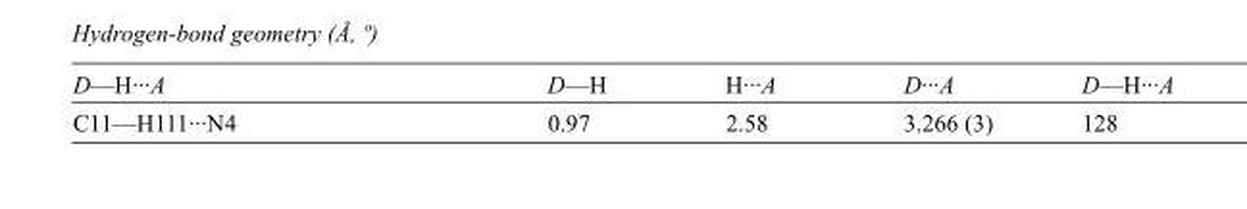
<table><tbody><tr><td>D—H···A</td><td>D—H</td><td>H···A</td><td>D···A</td><td>D—H···A</td></tr><tr><td>C11—H111···N4</td><td>0.97</td><td>2.58</td><td>3.266 (3)</td><td>128</td></tr></tbody></table>